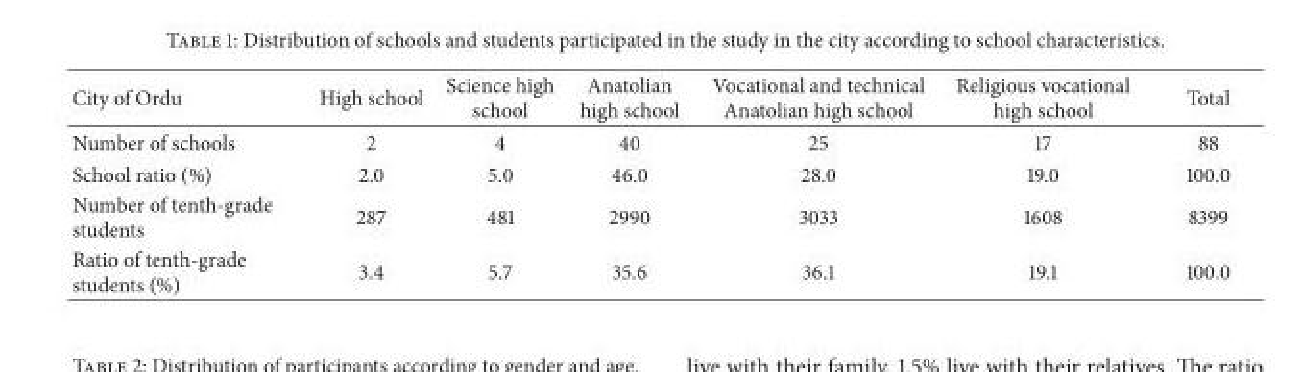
<table><thead><tr><td>City of Ordu</td><td>High school</td><td>Science high school</td><td>Anatolian high school</td><td>Vocational and technical Anatolian high school</td><td>Religious vocational high school</td><td>Total</td></tr></thead><tbody><tr><td>Number of schools</td><td>2</td><td>4</td><td>40</td><td>25</td><td>17</td><td>88</td></tr><tr><td>School ratio (%)</td><td>2.0</td><td>5.0</td><td>46.0</td><td>28.0</td><td>19.0</td><td>100.0</td></tr><tr><td>Number of tenth-grade students</td><td>287</td><td>481</td><td>2990</td><td>3033</td><td>1608</td><td>8399</td></tr><tr><td>Ratio of tenth-grade students (%)</td><td>3.4</td><td>5.7</td><td>35.6</td><td>36.1</td><td>19.1</td><td>100.0</td></tr></tbody></table>